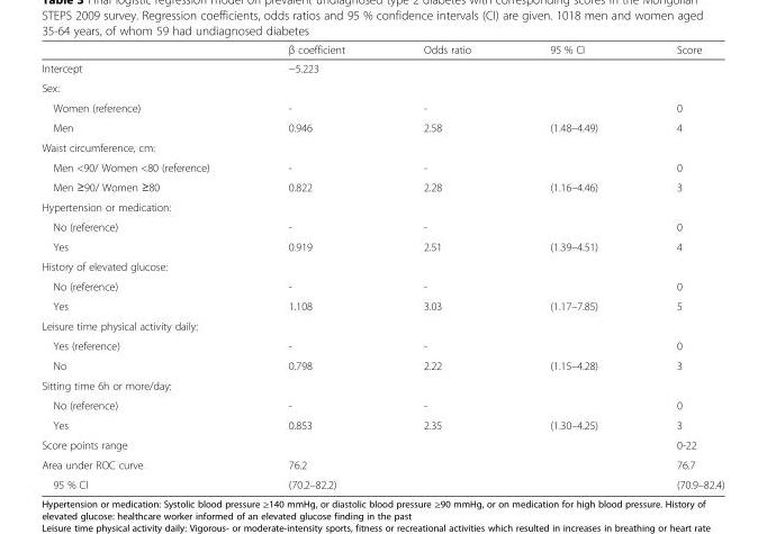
<table><thead><tr><td></td><td>β coefficient</td><td>Odds ratio</td><td>95 % CI</td><td>Score</td></tr></thead><tbody><tr><td>Intercept</td><td>−5.223</td><td></td><td></td><td></td></tr><tr><td colspan="5">Sex:</td></tr><tr><td>Women (reference)</td><td>-</td><td>-</td><td></td><td>0</td></tr><tr><td>Men</td><td>0.946</td><td>2.58</td><td>(1.48–4.49)</td><td>4</td></tr><tr><td colspan="5">Waist circumference, cm:</td></tr><tr><td>Men &lt;90/ Women &lt;80 (reference)</td><td>-</td><td>-</td><td></td><td>0</td></tr><tr><td>Men ≥90/ Women ≥80</td><td>0.822</td><td>2.28</td><td>(1.16–4.46)</td><td>3</td></tr><tr><td colspan="5">Hypertension or medication:</td></tr><tr><td>No (reference)</td><td>-</td><td>-</td><td></td><td>0</td></tr><tr><td>Yes</td><td>0.919</td><td>2.51</td><td>(1.39–4.51)</td><td>4</td></tr><tr><td colspan="5">History of elevated glucose:</td></tr><tr><td>No (reference)</td><td>-</td><td>-</td><td></td><td>0</td></tr><tr><td>Yes</td><td>1.108</td><td>3.03</td><td>(1.17–7.85)</td><td>5</td></tr><tr><td colspan="5">Leisure time physical activity daily:</td></tr><tr><td>Yes (reference)</td><td>-</td><td>-</td><td></td><td>0</td></tr><tr><td>No</td><td>0.798</td><td>2.22</td><td>(1.15–4.28)</td><td>3</td></tr><tr><td colspan="5">Sitting time 6h or more/day:</td></tr><tr><td>No (reference)</td><td>-</td><td>-</td><td></td><td>0</td></tr><tr><td>Yes</td><td>0.853</td><td>2.35</td><td>(1.30–4.25)</td><td>3</td></tr><tr><td>Score points range</td><td></td><td></td><td></td><td>0-22</td></tr><tr><td>Area under ROC curve</td><td>76.2</td><td></td><td></td><td>76.7</td></tr><tr><td>95 % CI</td><td>(70.2–82.2)</td><td></td><td></td><td>(70.9–82.4)</td></tr></tbody></table>